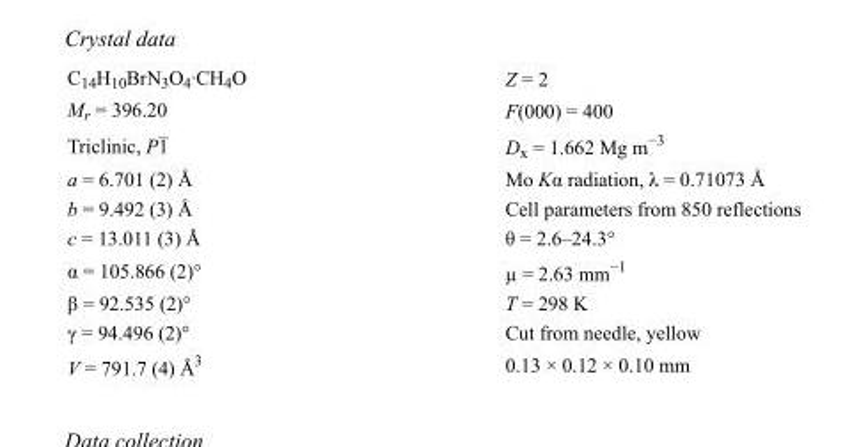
<table><tbody><tr><td>C<sub>14</sub>H<sub>10</sub>BrN<sub>3</sub>O<sub>4</sub>·CH<sub>4</sub>O</td><td>Z = 2</td></tr><tr><td>M<sub>r</sub> = 396.20</td><td>F(000) = 400</td></tr><tr><td>Triclinic, P1</td><td>D<sub>x</sub> = 1.662 Mg m<sup>−3</sup></td></tr><tr><td>a = 6.701 (2) Å</td><td>Mo Kα radiation, λ = 0.71073 Å</td></tr><tr><td>b = 9.492 (3) Å</td><td>Cell parameters from 850 reflections</td></tr><tr><td>c = 13.011 (3) Å</td><td>θ = 2.6–24.3°</td></tr><tr><td>α = 105.866 (2)°</td><td>µ = 2.63 mm<sup>−1</sup></td></tr><tr><td>β = 92.535 (2)°</td><td>T = 298 K</td></tr><tr><td>γ = 94.496 (2)°</td><td>Cut from needle, yellow</td></tr><tr><td>V = 791.7 (4) Å<sup>3</sup></td><td>0.13 × 0.12 × 0.10 mm</td></tr></tbody></table>